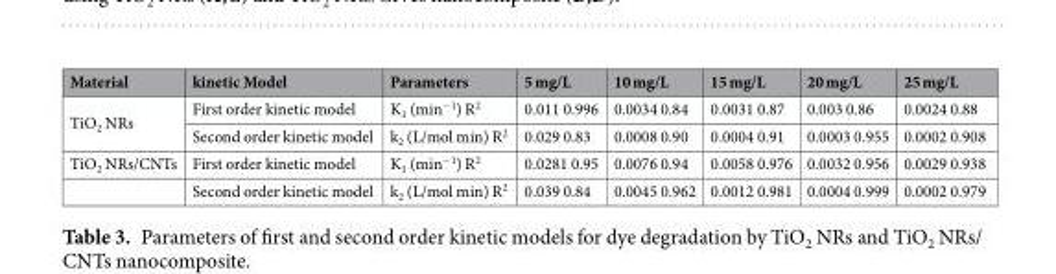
<table><thead><tr><td>Material</td><td>kinetic Model</td><td>Parameters</td><td>5 mg/L</td><td>10 mg/L</td><td>15 mg/L</td><td>20 mg/L</td><td>25 mg/L</td></tr></thead><tbody><tr><td rowspan="2">TiO<sub>2</sub> NRs</td><td>First order kinetic model</td><td>K<sub>1</sub> (min<sup>−1</sup>) R<sup>2</sup></td><td>0.011 0.996</td><td>0.0034 0.84</td><td>0.0031 0.87</td><td>0.003 0.86</td><td>0.0024 0.88</td></tr><tr><td>Second order kinetic model</td><td>k<sub>2</sub> (L/mol min) R<sup>2</sup></td><td>0.029 0.83</td><td>0.0008 0.90</td><td>0.0004 0.91</td><td>0.0003 0.955</td><td>0.0002 0.908</td></tr><tr><td rowspan="2">TiO<sub>2</sub> NRs/CNTs</td><td>First order kinetic model</td><td>K<sub>1</sub> (min<sup>−1</sup>) R<sup>2</sup></td><td>0.0281 0.95</td><td>0.0076 0.94</td><td>0.0058 0.976</td><td>0.0032 0.956</td><td>0.0029 0.938</td></tr><tr><td>Second order kinetic model</td><td>k<sub>2</sub> (L/mol min) R<sup>2</sup></td><td>0.039 0.84</td><td>0.0045 0.962</td><td>0.0012 0.981</td><td>0.0004 0.999</td><td>0.0002 0.979</td></tr></tbody></table>